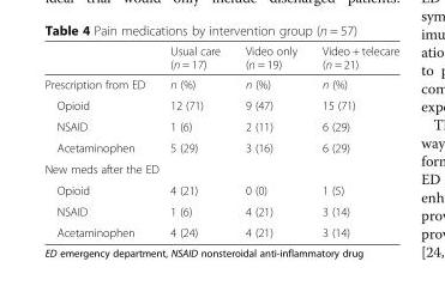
<table><thead><tr><td></td><td>Usual care (n = 17)</td><td>Video only (n = 19)</td><td>Video + telecare (n = 21)</td></tr></thead><tbody><tr><td>Prescription from ED</td><td>n (%)</td><td>n (%)</td><td>n (%)</td></tr><tr><td>Opioid</td><td>12 (71)</td><td>9 (47)</td><td>15 (71)</td></tr><tr><td>NSAID</td><td>1 (6)</td><td>2 (11)</td><td>6 (29)</td></tr><tr><td>Acetaminophen</td><td>5 (29)</td><td>3 (16)</td><td>6 (29)</td></tr><tr><td colspan="4">New meds after the ED</td></tr><tr><td>Opioid</td><td>4 (21)</td><td>0 (0)</td><td>1 (5)</td></tr><tr><td>NSAID</td><td>1 (6)</td><td>4 (21)</td><td>3 (14)</td></tr><tr><td>Acetaminophen</td><td>4 (24)</td><td>4 (21)</td><td>3 (14)</td></tr></tbody></table>